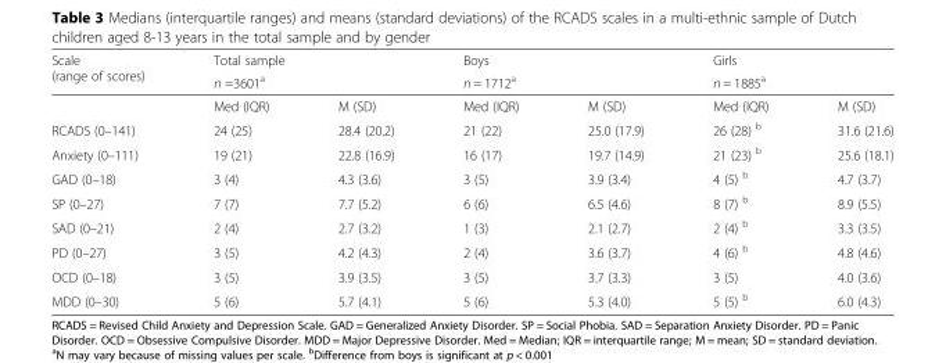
<table><thead><tr><td rowspan="3">Scale (range of scores)</td><td rowspan="2" colspan="2">Total sample n =3601<sup>a</sup></td><td rowspan="2" colspan="2">Boys n = 1712<sup>a</sup></td><td rowspan="2" colspan="2">Girls n = 1885<sup>a</sup></td></tr><tr></tr><tr><td>Med (IQR)</td><td>M (SD)</td><td>Med (IQR)</td><td>M (SD)</td><td>Med (IQR)</td><td>M (SD)</td></tr></thead><tbody><tr><td>RCADS (0–141)</td><td>24 (25)</td><td>28.4 (20.2)</td><td>21 (22)</td><td>25.0 (17.9)</td><td>26 (28) <sup>b</sup></td><td>31.6 (21.6)</td></tr><tr><td>Anxiety (0–111)</td><td>19 (21)</td><td>22.8 (16.9)</td><td>16 (17)</td><td>19.7 (14.9)</td><td>21 (23) <sup>b</sup></td><td>25.6 (18.1)</td></tr><tr><td>GAD (0–18)</td><td>3 (4)</td><td>4.3 (3.6)</td><td>3 (5)</td><td>3.9 (3.4)</td><td>4 (5) <sup>b</sup></td><td>4.7 (3.7)</td></tr><tr><td>SP (0–27)</td><td>7 (7)</td><td>7.7 (5.2)</td><td>6 (6)</td><td>6.5 (4.6)</td><td>8 (7) <sup>b</sup></td><td>8.9 (5.5)</td></tr><tr><td>SAD (0–21)</td><td>2 (4)</td><td>2.7 (3.2)</td><td>1 (3)</td><td>2.1 (2.7)</td><td>2 (4) <sup>b</sup></td><td>3.3 (3.5)</td></tr><tr><td>PD (0–27)</td><td>3 (5)</td><td>4.2 (4.3)</td><td>2 (4)</td><td>3.6 (3.7)</td><td>4 (6) <sup>b</sup></td><td>4.8 (4.6)</td></tr><tr><td>OCD (0–18)</td><td>3 (5)</td><td>3.9 (3.5)</td><td>3 (5)</td><td>3.7 (3.3)</td><td>3 (5)</td><td>4.0 (3.6)</td></tr><tr><td>MDD (0–30)</td><td>5 (6)</td><td>5.7 (4.1)</td><td>5 (6)</td><td>5.3 (4.0)</td><td>5 (5) <sup>b</sup></td><td>6.0 (4.3)</td></tr></tbody></table>